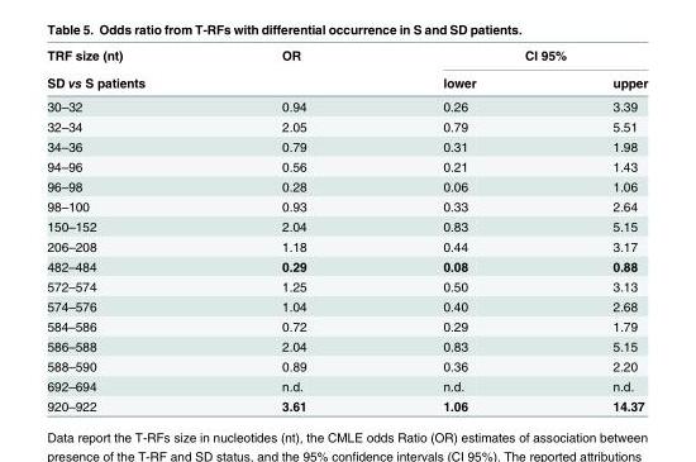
<table><thead><tr><td rowspan="2">TRF size (nt) SD vs S patients</td><td rowspan="2">OR</td><td colspan="2">CI 95%</td></tr><tr><td>lower</td><td>upper</td></tr></thead><tbody><tr><td>30–32</td><td>0.94</td><td>0.26</td><td>3.39</td></tr><tr><td>32–34</td><td>2.05</td><td>0.79</td><td>5.51</td></tr><tr><td>34–36</td><td>0.79</td><td>0.31</td><td>1.98</td></tr><tr><td>94–96</td><td>0.56</td><td>0.21</td><td>1.43</td></tr><tr><td>96–98</td><td>0.28</td><td>0.06</td><td>1.06</td></tr><tr><td>98–100</td><td>0.93</td><td>0.33</td><td>2.64</td></tr><tr><td>150–152</td><td>2.04</td><td>0.83</td><td>5.15</td></tr><tr><td>206–208</td><td>1.18</td><td>0.44</td><td>3.17</td></tr><tr><td>482–484</td><td>0.29</td><td>0.08</td><td>0.88</td></tr><tr><td>572–574</td><td>1.25</td><td>0.50</td><td>3.13</td></tr><tr><td>574–576</td><td>1.04</td><td>0.40</td><td>2.68</td></tr><tr><td>584–586</td><td>0.72</td><td>0.29</td><td>1.79</td></tr><tr><td>586–588</td><td>2.04</td><td>0.83</td><td>5.15</td></tr><tr><td>588–590</td><td>0.89</td><td>0.36</td><td>2.20</td></tr><tr><td>692–694</td><td>n.d.</td><td>n.d.</td><td>n.d.</td></tr><tr><td>920–922</td><td>3.61</td><td>1.06</td><td>14.37</td></tr></tbody></table>